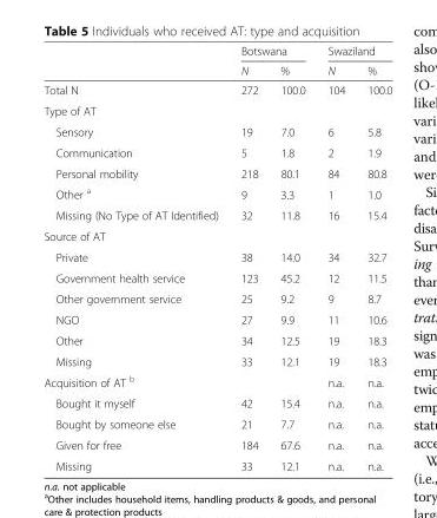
<table><thead><tr><td rowspan="2"></td><td colspan="2">Botswana</td><td colspan="2">Swaziland</td></tr><tr><td>N</td><td>%</td><td>N</td><td>%</td></tr></thead><tbody><tr><td>Total N</td><td>272</td><td>100.0</td><td>104</td><td>100.0</td></tr><tr><td colspan="5">Type of AT</td></tr><tr><td>Sensory</td><td>19</td><td>7.0</td><td>6</td><td>5.8</td></tr><tr><td>Communication</td><td>5</td><td>1.8</td><td>2</td><td>1.9</td></tr><tr><td>Personal mobility</td><td>218</td><td>80.1</td><td>84</td><td>80.8</td></tr><tr><td>Other <sup>a</sup></td><td>9</td><td>3.3</td><td>1</td><td>1.0</td></tr><tr><td>Missing (No Type of AT Identified)</td><td>32</td><td>11.8</td><td>16</td><td>15.4</td></tr><tr><td colspan="5">Source of AT</td></tr><tr><td>Private</td><td>38</td><td>14.0</td><td>34</td><td>32.7</td></tr><tr><td>Government health service</td><td>123</td><td>45.2</td><td>12</td><td>11.5</td></tr><tr><td>Other government service</td><td>25</td><td>9.2</td><td>9</td><td>8.7</td></tr><tr><td>NGO</td><td>27</td><td>9.9</td><td>11</td><td>10.6</td></tr><tr><td>Other</td><td>34</td><td>12.5</td><td>19</td><td>18.3</td></tr><tr><td>Missing</td><td>33</td><td>12.1</td><td>19</td><td>18.3</td></tr><tr><td>Acquisition of AT <sup>b</sup></td><td></td><td></td><td>n.a.</td><td>n.a.</td></tr><tr><td>Bought it myself</td><td>42</td><td>15.4</td><td>n.a.</td><td>n.a.</td></tr><tr><td>Bought by someone else</td><td>21</td><td>7.7</td><td>n.a.</td><td>n.a.</td></tr><tr><td>Given for free</td><td>184</td><td>67.6</td><td>n.a.</td><td>n.a.</td></tr><tr><td>Missing</td><td>33</td><td>12.1</td><td>n.a.</td><td>n.a.</td></tr></tbody></table>